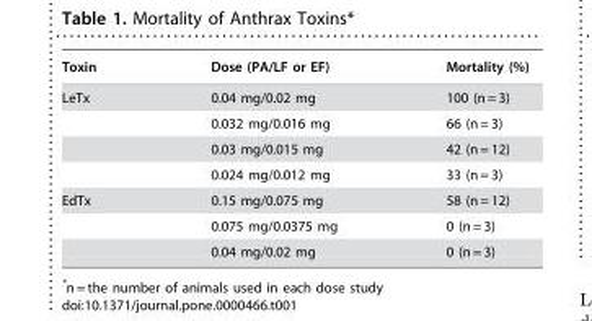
<table><thead><tr><td>Toxin</td><td>Dose (PA/LF or EF)</td><td>Mortality (%)</td></tr></thead><tbody><tr><td rowspan="4">LeTx</td><td>0.04 mg/0.02 mg</td><td>100 (n = 3)</td></tr><tr><td>0.032 mg/0.016 mg</td><td>66 (n = 3)</td></tr><tr><td>0.03 mg/0.015 mg</td><td>42 (n = 12)</td></tr><tr><td>0.024 mg/0.012 mg</td><td>33 (n = 3)</td></tr><tr><td rowspan="3">EdTx</td><td>0.15 mg/0.075 mg</td><td>58 (n = 12)</td></tr><tr><td>0.075 mg/0.0375 mg</td><td>0 (n = 3)</td></tr><tr><td>0.04 mg/0.02 mg</td><td>0 (n = 3)</td></tr></tbody></table>